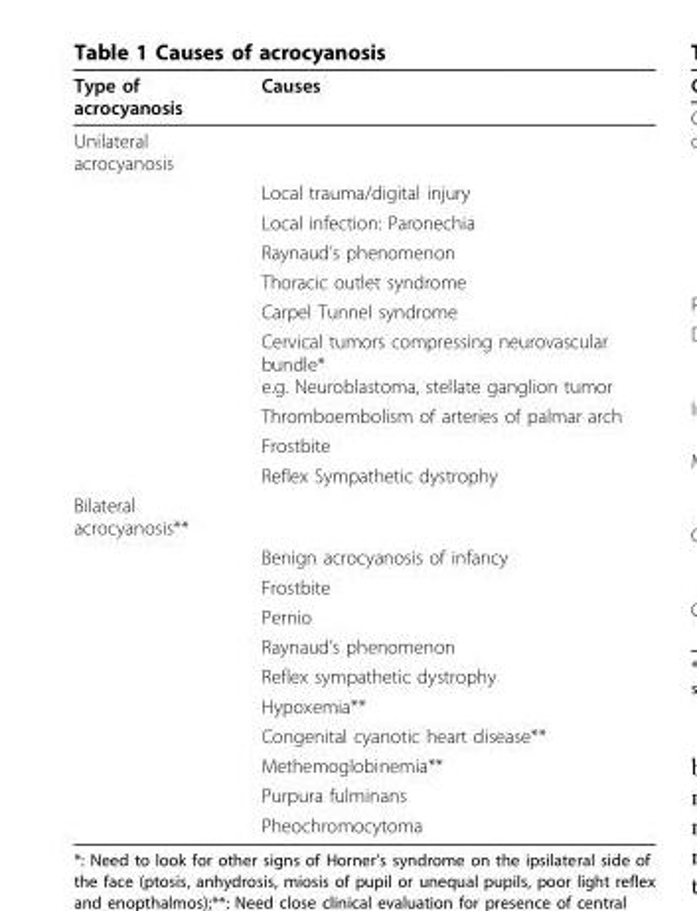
<table><thead><tr><td>Type of acrocyanosis</td><td>Causes</td></tr></thead><tbody><tr><td colspan="2">Unilateral acrocyanosis</td></tr><tr><td></td><td>Local trauma/digital injury</td></tr><tr><td></td><td>Local infection: Paronechia</td></tr><tr><td></td><td>Raynaud’s phenomenon</td></tr><tr><td></td><td>Thoracic outlet syndrome</td></tr><tr><td></td><td>Carpel Tunnel syndrome</td></tr><tr><td></td><td>Cervical tumors compressing neurovascular bundle* e.g. Neuroblastoma, stellate ganglion tumor</td></tr><tr><td></td><td>Thromboembolism of arteries of palmar arch</td></tr><tr><td></td><td>Frostbite</td></tr><tr><td></td><td>Reflex Sympathetic dystrophy</td></tr><tr><td colspan="2">Bilateral acrocyanosis**</td></tr><tr><td></td><td>Benign acrocyanosis of infancy</td></tr><tr><td></td><td>Frostbite</td></tr><tr><td></td><td>Pernio</td></tr><tr><td></td><td>Raynaud’s phenomenon</td></tr><tr><td></td><td>Reflex sympathetic dystrophy</td></tr><tr><td></td><td>Hypoxemia**</td></tr><tr><td></td><td>Congenital cyanotic heart disease**</td></tr><tr><td></td><td>Methemoglobinemia**</td></tr><tr><td></td><td>Purpura fulminans</td></tr><tr><td></td><td>Pheochromocytoma</td></tr></tbody></table>